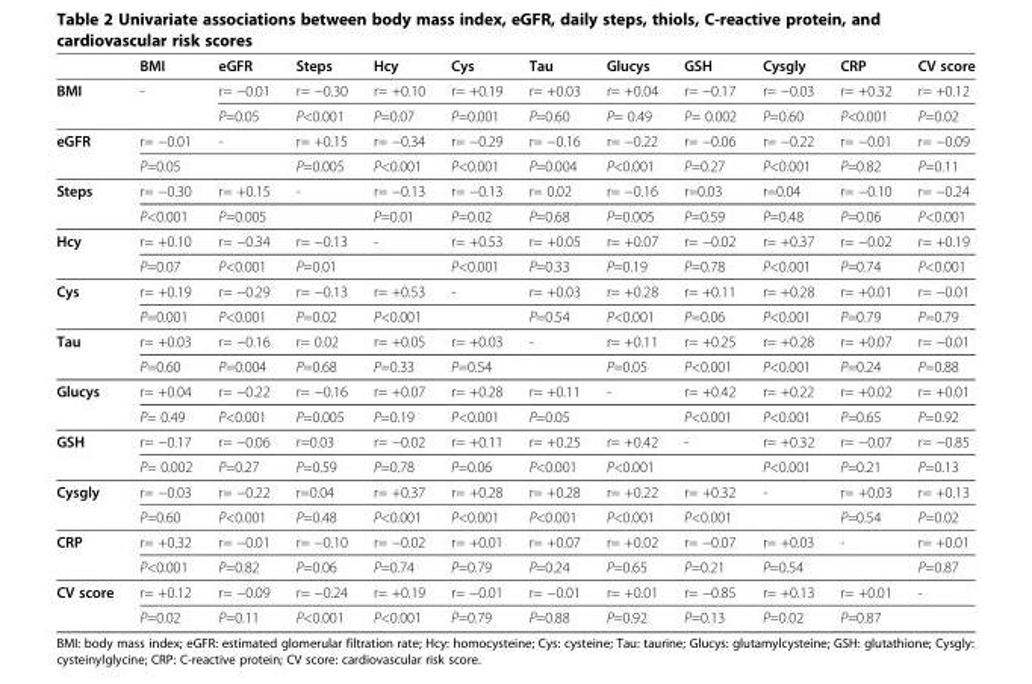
<table><thead><tr><td></td><td>BMI</td><td>eGFR</td><td>Steps</td><td>Hcy</td><td>Cys</td><td>Tau</td><td>Glucys</td><td>GSH</td><td>Cysgly</td><td>CRP</td><td>CV score</td></tr></thead><tbody><tr><td rowspan="2">BMI</td><td rowspan="2">-</td><td>r= −0.01</td><td>r= −0.30</td><td>r= +0.10</td><td>r= +0.19</td><td>r= +0.03</td><td>r= +0.04</td><td>r= −0.17</td><td>r= −0.03</td><td>r= +0.32</td><td>r= +0.12</td></tr><tr><td>P=0.05</td><td>P&lt;0.001</td><td>P=0.07</td><td>P=0.001</td><td>P=0.60</td><td>P= 0.49</td><td>P= 0.002</td><td>P=0.60</td><td>P&lt;0.001</td><td>P=0.02</td></tr><tr><td rowspan="2">eGFR</td><td>r= −0.01</td><td>-</td><td>r= +0.15</td><td>r= −0.34</td><td>r= −0.29</td><td>r= −0.16</td><td>r= −0.22</td><td>r= −0.06</td><td>r= −0.22</td><td>r= −0.01</td><td>r= −0.09</td></tr><tr><td>P=0.05</td><td></td><td>P=0.005</td><td>P&lt;0.001</td><td>P&lt;0.001</td><td>P=0.004</td><td>P&lt;0.001</td><td>P=0.27</td><td>P&lt;0.001</td><td>P=0.82</td><td>P=0.11</td></tr><tr><td rowspan="2">Steps</td><td>r= −0.30</td><td>r= +0.15</td><td>-</td><td>r= −0.13</td><td>r= −0.13</td><td>r= 0.02</td><td>r= −0.16</td><td>r=0.03</td><td>r=0.04</td><td>r= −0.10</td><td>r= −0.24</td></tr><tr><td>P&lt;0.001</td><td>P=0.005</td><td></td><td>P=0.01</td><td>P=0.02</td><td>P=0.68</td><td>P=0.005</td><td>P=0.59</td><td>P=0.48</td><td>P=0.06</td><td>P&lt;0.001</td></tr><tr><td rowspan="2">Hcy</td><td>r= +0.10</td><td>r= −0.34</td><td>r= −0.13</td><td>-</td><td>r= +0.53</td><td>r= +0.05</td><td>r= +0.07</td><td>r= −0.02</td><td>r= +0.37</td><td>r= −0.02</td><td>r= +0.19</td></tr><tr><td>P=0.07</td><td>P&lt;0.001</td><td>P=0.01</td><td></td><td>P&lt;0.001</td><td>P=0.33</td><td>P=0.19</td><td>P=0.78</td><td>P&lt;0.001</td><td>P=0.74</td><td>P&lt;0.001</td></tr><tr><td rowspan="2">Cys</td><td>r= +0.19</td><td>r= −0.29</td><td>r= −0.13</td><td>r= +0.53</td><td>-</td><td>r= +0.03</td><td>r= +0.28</td><td>r= +0.11</td><td>r= +0.28</td><td>r= +0.01</td><td>r= −0.01</td></tr><tr><td>P=0.001</td><td>P&lt;0.001</td><td>P=0.02</td><td>P&lt;0.001</td><td></td><td>P=0.54</td><td>P&lt;0.001</td><td>P=0.06</td><td>P&lt;0.001</td><td>P=0.79</td><td>P=0.79</td></tr><tr><td rowspan="2">Tau</td><td>r= +0.03</td><td>r= −0.16</td><td>r= 0.02</td><td>r= +0.05</td><td>r= +0.03</td><td>-</td><td>r= +0.11</td><td>r= +0.25</td><td>r= +0.28</td><td>r= +0.07</td><td>r= −0.01</td></tr><tr><td>P=0.60</td><td>P=0.004</td><td>P=0.68</td><td>P=0.33</td><td>P=0.54</td><td></td><td>P=0.05</td><td>P&lt;0.001</td><td>P&lt;0.001</td><td>P=0.24</td><td>P=0.88</td></tr><tr><td rowspan="2">Glucys</td><td>r= +0.04</td><td>r= −0.22</td><td>r= −0.16</td><td>r= +0.07</td><td>r= +0.28</td><td>r= +0.11</td><td>-</td><td>r= +0.42</td><td>r= +0.22</td><td>r= +0.02</td><td>r= +0.01</td></tr><tr><td>P= 0.49</td><td>P&lt;0.001</td><td>P=0.005</td><td>P=0.19</td><td>P&lt;0.001</td><td>P=0.05</td><td></td><td>P&lt;0.001</td><td>P&lt;0.001</td><td>P=0.65</td><td>P=0.92</td></tr><tr><td rowspan="2">GSH</td><td>r= −0.17</td><td>r= −0.06</td><td>r=0.03</td><td>r= −0.02</td><td>r= +0.11</td><td>r= +0.25</td><td>r= +0.42</td><td>-</td><td>r= +0.32</td><td>r= −0.07</td><td>r= −0.85</td></tr><tr><td>P= 0.002</td><td>P=0.27</td><td>P=0.59</td><td>P=0.78</td><td>P=0.06</td><td>P&lt;0.001</td><td>P&lt;0.001</td><td></td><td>P&lt;0.001</td><td>P=0.21</td><td>P=0.13</td></tr><tr><td rowspan="2">Cysgly</td><td>r= −0.03</td><td>r= −0.22</td><td>r=0.04</td><td>r= +0.37</td><td>r= +0.28</td><td>r= +0.28</td><td>r= +0.22</td><td>r= +0.32</td><td>-</td><td>r= +0.03</td><td>r= +0.13</td></tr><tr><td>P=0.60</td><td>P&lt;0.001</td><td>P=0.48</td><td>P&lt;0.001</td><td>P&lt;0.001</td><td>P&lt;0.001</td><td>P&lt;0.001</td><td>P&lt;0.001</td><td></td><td>P=0.54</td><td>P=0.02</td></tr><tr><td rowspan="2">CRP</td><td>r= +0.32</td><td>r= −0.01</td><td>r= −0.10</td><td>r= −0.02</td><td>r= +0.01</td><td>r= +0.07</td><td>r= +0.02</td><td>r= −0.07</td><td>r= +0.03</td><td>-</td><td>r= +0.01</td></tr><tr><td>P&lt;0.001</td><td>P=0.82</td><td>P=0.06</td><td>P=0.74</td><td>P=0.79</td><td>P=0.24</td><td>P=0.65</td><td>P=0.21</td><td>P=0.54</td><td></td><td>P=0.87</td></tr><tr><td rowspan="2">CV score</td><td>r= +0.12</td><td>r= −0.09</td><td>r= −0.24</td><td>r= +0.19</td><td>r= −0.01</td><td>r= −0.01</td><td>r= +0.01</td><td>r= −0.85</td><td>r= +0.13</td><td>r= +0.01</td><td>-</td></tr><tr><td>P=0.02</td><td>P=0.11</td><td>P&lt;0.001</td><td>P&lt;0.001</td><td>P=0.79</td><td>P=0.88</td><td>P=0.92</td><td>P=0.13</td><td>P=0.02</td><td>P=0.87</td><td></td></tr></tbody></table>